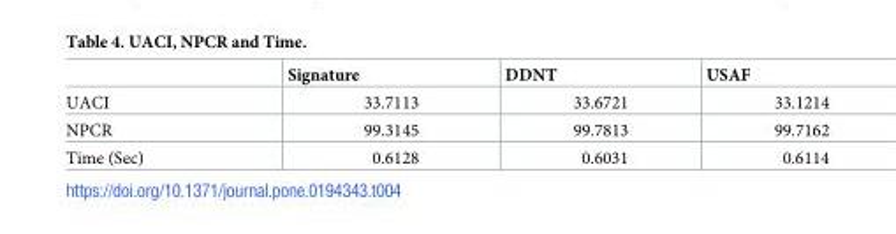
<table><thead><tr><td></td><td>Signature</td><td>DDNT</td><td>USAF</td></tr></thead><tbody><tr><td>UACI</td><td>33.7113</td><td>33.6721</td><td>33.1214</td></tr><tr><td>NPCR</td><td>99.3145</td><td>99.7813</td><td>99.7162</td></tr><tr><td>Time (Sec)</td><td>0.6128</td><td>0.6031</td><td>0.6114</td></tr></tbody></table>